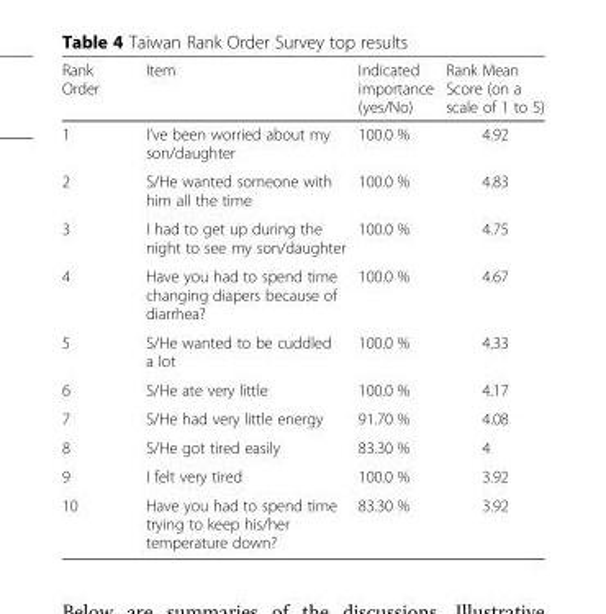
<table><thead><tr><td>Rank Order</td><td>Item</td><td>Indicated importance (yes/No)</td><td>Rank Mean Score (on a scale of 1 to 5)</td></tr></thead><tbody><tr><td>1</td><td>I’ve been worried about my son/daughter</td><td>100.0 %</td><td>4.92</td></tr><tr><td>2</td><td>S/He wanted someone with him all the time</td><td>100.0 %</td><td>4.83</td></tr><tr><td>3</td><td>I had to get up during the night to see my son/daughter</td><td>100.0 %</td><td>4.75</td></tr><tr><td>4</td><td>Have you had to spend time changing diapers because of diarrhea?</td><td>100.0 %</td><td>4.67</td></tr><tr><td>5</td><td>S/He wanted to be cuddled a lot</td><td>100.0 %</td><td>4.33</td></tr><tr><td>6</td><td>S/He ate very little</td><td>100.0 %</td><td>4.17</td></tr><tr><td>7</td><td>S/He had very little energy</td><td>91.70 %</td><td>4.08</td></tr><tr><td>8</td><td>S/He got tired easily</td><td>83.30 %</td><td>4</td></tr><tr><td>9</td><td>I felt very tired</td><td>100.0 %</td><td>3.92</td></tr><tr><td>10</td><td>Have you had to spend time trying to keep his/her temperature down?</td><td>83.30 %</td><td>3.92</td></tr></tbody></table>